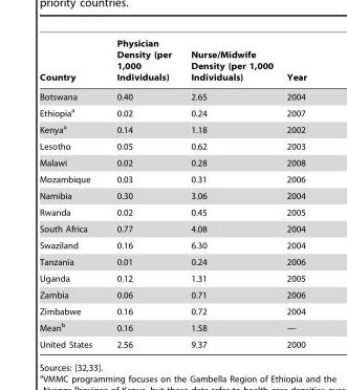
<table><thead><tr><td>Country</td><td>Physician Density (per 1,000 Individuals)</td><td>Nurse/Midwife Density (per 1,000 Individuals)</td><td>Year</td></tr></thead><tbody><tr><td>Botswana</td><td>0.40</td><td>2.65</td><td>2004</td></tr><tr><td>Ethiopia<sup>a</sup></td><td>0.02</td><td>0.24</td><td>2007</td></tr><tr><td>Kenya<sup>a</sup></td><td>0.14</td><td>1.18</td><td>2002</td></tr><tr><td>Lesotho</td><td>0.05</td><td>0.62</td><td>2003</td></tr><tr><td>Malawi</td><td>0.02</td><td>0.28</td><td>2008</td></tr><tr><td>Mozambique</td><td>0.03</td><td>0.31</td><td>2006</td></tr><tr><td>Namibia</td><td>0.30</td><td>3.06</td><td>2004</td></tr><tr><td>Rwanda</td><td>0.02</td><td>0.45</td><td>2005</td></tr><tr><td>South Africa</td><td>0.77</td><td>4.08</td><td>2004</td></tr><tr><td>Swaziland</td><td>0.16</td><td>6.30</td><td>2004</td></tr><tr><td>Tanzania</td><td>0.01</td><td>0.24</td><td>2006</td></tr><tr><td>Uganda</td><td>0.12</td><td>1.31</td><td>2005</td></tr><tr><td>Zambia</td><td>0.06</td><td>0.71</td><td>2006</td></tr><tr><td>Zimbabwe</td><td>0.16</td><td>0.72</td><td>2004</td></tr><tr><td>Mean<sup>b</sup></td><td>0.16</td><td>1.58</td><td>—</td></tr><tr><td>United States</td><td>2.56</td><td>9.37</td><td>2000</td></tr></tbody></table>